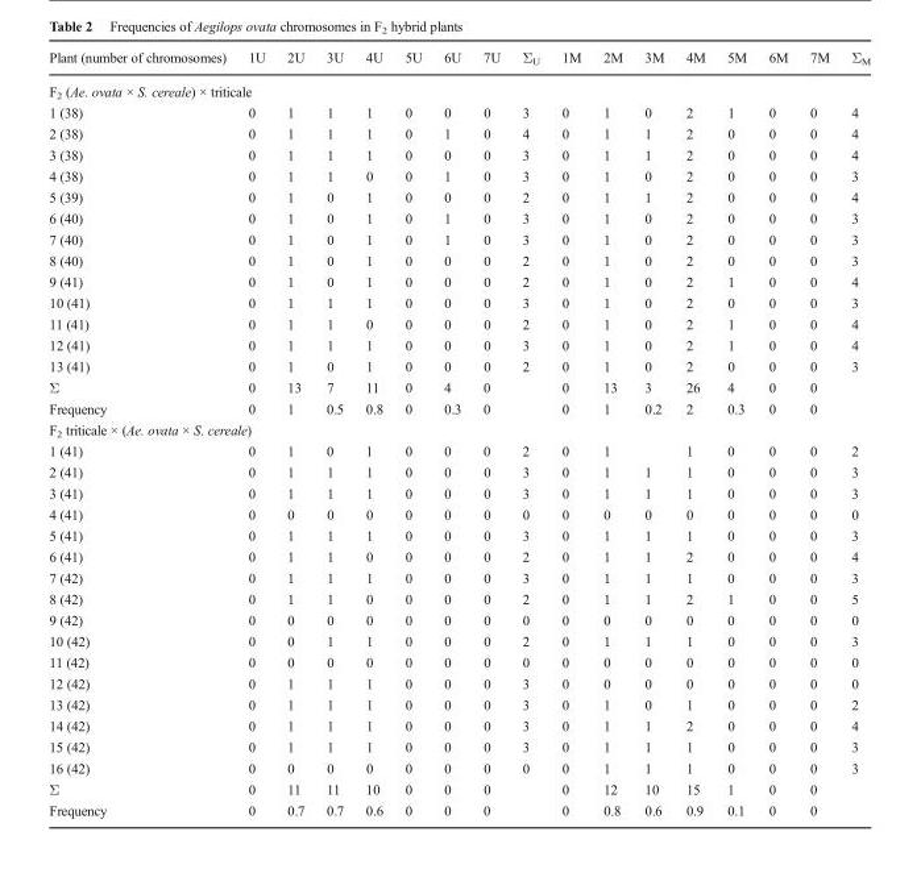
<table><thead><tr><td>Plant (number of chromosomes)</td><td>1U</td><td>2U</td><td>3U</td><td>4U</td><td>5U</td><td>6U</td><td>7U</td><td>Σ<sub>U</sub></td><td>1M</td><td>2M</td><td>3M</td><td>4M</td><td>5M</td><td>6M</td><td>7M</td><td>Σ<sub>M</sub></td></tr></thead><tbody><tr><td colspan="17">F<sub>2</sub> (Ae. ovata × S. cereale) × triticale</td></tr><tr><td>1 (38)</td><td>0</td><td>1</td><td>1</td><td>1</td><td>0</td><td>0</td><td>0</td><td>3</td><td>0</td><td>1</td><td>0</td><td>2</td><td>1</td><td>0</td><td>0</td><td>4</td></tr><tr><td>2 (38)</td><td>0</td><td>1</td><td>1</td><td>1</td><td>0</td><td>1</td><td>0</td><td>4</td><td>0</td><td>1</td><td>1</td><td>2</td><td>0</td><td>0</td><td>0</td><td>4</td></tr><tr><td>3 (38)</td><td>0</td><td>1</td><td>1</td><td>1</td><td>0</td><td>0</td><td>0</td><td>3</td><td>0</td><td>1</td><td>1</td><td>2</td><td>0</td><td>0</td><td>0</td><td>4</td></tr><tr><td>4 (38)</td><td>0</td><td>1</td><td>1</td><td>0</td><td>0</td><td>1</td><td>0</td><td>3</td><td>0</td><td>1</td><td>0</td><td>2</td><td>0</td><td>0</td><td>0</td><td>3</td></tr><tr><td>5 (39)</td><td>0</td><td>1</td><td>0</td><td>1</td><td>0</td><td>0</td><td>0</td><td>2</td><td>0</td><td>1</td><td>1</td><td>2</td><td>0</td><td>0</td><td>0</td><td>4</td></tr><tr><td>6 (40)</td><td>0</td><td>1</td><td>0</td><td>1</td><td>0</td><td>1</td><td>0</td><td>3</td><td>0</td><td>1</td><td>0</td><td>2</td><td>0</td><td>0</td><td>0</td><td>3</td></tr><tr><td>7 (40)</td><td>0</td><td>1</td><td>0</td><td>1</td><td>0</td><td>1</td><td>0</td><td>3</td><td>0</td><td>1</td><td>0</td><td>2</td><td>0</td><td>0</td><td>0</td><td>3</td></tr><tr><td>8 (40)</td><td>0</td><td>1</td><td>0</td><td>1</td><td>0</td><td>0</td><td>0</td><td>2</td><td>0</td><td>1</td><td>0</td><td>2</td><td>0</td><td>0</td><td>0</td><td>3</td></tr><tr><td>9 (41)</td><td>0</td><td>1</td><td>0</td><td>1</td><td>0</td><td>0</td><td>0</td><td>2</td><td>0</td><td>1</td><td>0</td><td>2</td><td>1</td><td>0</td><td>0</td><td>4</td></tr><tr><td>10 (41)</td><td>0</td><td>1</td><td>1</td><td>1</td><td>0</td><td>0</td><td>0</td><td>3</td><td>0</td><td>1</td><td>0</td><td>2</td><td>0</td><td>0</td><td>0</td><td>3</td></tr><tr><td>11 (41)</td><td>0</td><td>1</td><td>1</td><td>0</td><td>0</td><td>0</td><td>0</td><td>2</td><td>0</td><td>1</td><td>0</td><td>2</td><td>1</td><td>0</td><td>0</td><td>4</td></tr><tr><td>12 (41)</td><td>0</td><td>1</td><td>1</td><td>1</td><td>0</td><td>0</td><td>0</td><td>3</td><td>0</td><td>1</td><td>0</td><td>2</td><td>1</td><td>0</td><td>0</td><td>4</td></tr><tr><td>13 (41)</td><td>0</td><td>1</td><td>0</td><td>1</td><td>0</td><td>0</td><td>0</td><td>2</td><td>0</td><td>1</td><td>0</td><td>2</td><td>0</td><td>0</td><td>0</td><td>3</td></tr><tr><td>Σ</td><td>0</td><td>13</td><td>7</td><td>11</td><td>0</td><td>4</td><td>0</td><td></td><td>0</td><td>13</td><td>3</td><td>26</td><td>4</td><td>0</td><td>0</td><td></td></tr><tr><td>Frequency</td><td>0</td><td>1</td><td>0.5</td><td>0.8</td><td>0</td><td>0.3</td><td>0</td><td></td><td>0</td><td>1</td><td>0.2</td><td>2</td><td>0.3</td><td>0</td><td>0</td><td></td></tr><tr><td colspan="17">F<sub>2</sub> triticale × (Ae. ovata × S. cereale)</td></tr><tr><td>1 (41)</td><td>0</td><td>1</td><td>0</td><td>1</td><td>0</td><td>0</td><td>0</td><td>2</td><td>0</td><td>1</td><td></td><td>1</td><td>0</td><td>0</td><td>0</td><td>2</td></tr><tr><td>2 (41)</td><td>0</td><td>1</td><td>1</td><td>1</td><td>0</td><td>0</td><td>0</td><td>3</td><td>0</td><td>1</td><td>1</td><td>1</td><td>0</td><td>0</td><td>0</td><td>3</td></tr><tr><td>3 (41)</td><td>0</td><td>1</td><td>1</td><td>1</td><td>0</td><td>0</td><td>0</td><td>3</td><td>0</td><td>1</td><td>1</td><td>1</td><td>0</td><td>0</td><td>0</td><td>3</td></tr><tr><td>4 (41)</td><td>0</td><td>0</td><td>0</td><td>0</td><td>0</td><td>0</td><td>0</td><td>0</td><td>0</td><td>0</td><td>0</td><td>0</td><td>0</td><td>0</td><td>0</td><td>0</td></tr><tr><td>5 (41)</td><td>0</td><td>1</td><td>1</td><td>1</td><td>0</td><td>0</td><td>0</td><td>3</td><td>0</td><td>1</td><td>1</td><td>1</td><td>0</td><td>0</td><td>0</td><td>3</td></tr><tr><td>6 (41)</td><td>0</td><td>1</td><td>1</td><td>0</td><td>0</td><td>0</td><td>0</td><td>2</td><td>0</td><td>1</td><td>1</td><td>2</td><td>0</td><td>0</td><td>0</td><td>4</td></tr><tr><td>7 (42)</td><td>0</td><td>1</td><td>1</td><td>1</td><td>0</td><td>0</td><td>0</td><td>3</td><td>0</td><td>1</td><td>1</td><td>1</td><td>0</td><td>0</td><td>0</td><td>3</td></tr><tr><td>8 (42)</td><td>0</td><td>1</td><td>1</td><td>0</td><td>0</td><td>0</td><td>0</td><td>2</td><td>0</td><td>1</td><td>1</td><td>2</td><td>1</td><td>0</td><td>0</td><td>5</td></tr><tr><td>9 (42)</td><td>0</td><td>0</td><td>0</td><td>0</td><td>0</td><td>0</td><td>0</td><td>0</td><td>0</td><td>0</td><td>0</td><td>0</td><td>0</td><td>0</td><td>0</td><td>0</td></tr><tr><td>10 (42)</td><td>0</td><td>0</td><td>1</td><td>1</td><td>0</td><td>0</td><td>0</td><td>2</td><td>0</td><td>1</td><td>1</td><td>1</td><td>0</td><td>0</td><td>0</td><td>3</td></tr><tr><td>11 (42)</td><td>0</td><td>0</td><td>0</td><td>0</td><td>0</td><td>0</td><td>0</td><td>0</td><td>0</td><td>0</td><td>0</td><td>0</td><td>0</td><td>0</td><td>0</td><td>0</td></tr><tr><td>12 (42)</td><td>0</td><td>1</td><td>1</td><td>1</td><td>0</td><td>0</td><td>0</td><td>3</td><td>0</td><td>0</td><td>0</td><td>0</td><td>0</td><td>0</td><td>0</td><td>0</td></tr><tr><td>13 (42)</td><td>0</td><td>1</td><td>1</td><td>1</td><td>0</td><td>0</td><td>0</td><td>3</td><td>0</td><td>1</td><td>0</td><td>1</td><td>0</td><td>0</td><td>0</td><td>2</td></tr><tr><td>14 (42)</td><td>0</td><td>1</td><td>1</td><td>1</td><td>0</td><td>0</td><td>0</td><td>3</td><td>0</td><td>1</td><td>1</td><td>2</td><td>0</td><td>0</td><td>0</td><td>4</td></tr><tr><td>15 (42)</td><td>0</td><td>1</td><td>1</td><td>1</td><td>0</td><td>0</td><td>0</td><td>3</td><td>0</td><td>1</td><td>1</td><td>1</td><td>0</td><td>0</td><td>0</td><td>3</td></tr><tr><td>16 (42)</td><td>0</td><td>0</td><td>0</td><td>0</td><td>0</td><td>0</td><td>0</td><td>0</td><td>0</td><td>1</td><td>1</td><td>1</td><td>0</td><td>0</td><td>0</td><td>3</td></tr><tr><td>Σ</td><td>0</td><td>11</td><td>11</td><td>10</td><td>0</td><td>0</td><td>0</td><td></td><td>0</td><td>12</td><td>10</td><td>15</td><td>1</td><td>0</td><td>0</td><td></td></tr><tr><td>Frequency</td><td>0</td><td>0.7</td><td>0.7</td><td>0.6</td><td>0</td><td>0</td><td>0</td><td></td><td>0</td><td>0.8</td><td>0.6</td><td>0.9</td><td>0.1</td><td>0</td><td>0</td><td></td></tr></tbody></table>